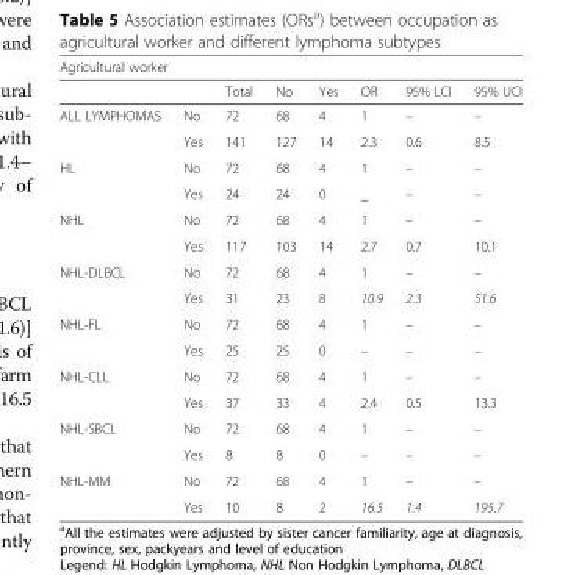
<table><thead><tr><td colspan="8">Agricultural worker</td></tr><tr><td></td><td></td><td>Total</td><td>No</td><td>Yes</td><td>OR</td><td>95% LCI</td><td>95% UCI</td></tr></thead><tbody><tr><td rowspan="2">ALL LYMPHOMAS</td><td>No</td><td>72</td><td>68</td><td>4</td><td>1</td><td>–</td><td>–</td></tr><tr><td>Yes</td><td>141</td><td>127</td><td>14</td><td>2.3</td><td>0.6</td><td>8.5</td></tr><tr><td rowspan="2">HL</td><td>No</td><td>72</td><td>68</td><td>4</td><td>1</td><td>–</td><td>–</td></tr><tr><td>Yes</td><td>24</td><td>24</td><td>0</td><td>_</td><td>–</td><td>–</td></tr><tr><td rowspan="2">NHL</td><td>No</td><td>72</td><td>68</td><td>4</td><td>1</td><td>–</td><td>–</td></tr><tr><td>Yes</td><td>117</td><td>103</td><td>14</td><td>2.7</td><td>0.7</td><td>10.1</td></tr><tr><td rowspan="2">NHL-DLBCL</td><td>No</td><td>72</td><td>68</td><td>4</td><td>1</td><td>–</td><td>–</td></tr><tr><td>Yes</td><td>31</td><td>23</td><td>8</td><td>10.9</td><td>2.3</td><td>51.6</td></tr><tr><td rowspan="2">NHL-FL</td><td>No</td><td>72</td><td>68</td><td>4</td><td>1</td><td>–</td><td>–</td></tr><tr><td>Yes</td><td>25</td><td>25</td><td>0</td><td>–</td><td>–</td><td>–</td></tr><tr><td rowspan="2">NHL-CLL</td><td>No</td><td>72</td><td>68</td><td>4</td><td>1</td><td>–</td><td>–</td></tr><tr><td>Yes</td><td>37</td><td>33</td><td>4</td><td>2.4</td><td>0.5</td><td>13.3</td></tr><tr><td rowspan="2">NHL-SBCL</td><td>No</td><td>72</td><td>68</td><td>4</td><td>1</td><td>–</td><td>–</td></tr><tr><td>Yes</td><td>8</td><td>8</td><td>0</td><td>–</td><td>–</td><td>–</td></tr><tr><td rowspan="2">NHL-MM</td><td>No</td><td>72</td><td>68</td><td>4</td><td>1</td><td>–</td><td>–</td></tr><tr><td>Yes</td><td>10</td><td>8</td><td>2</td><td>16.5</td><td>1.4</td><td>195.7</td></tr></tbody></table>